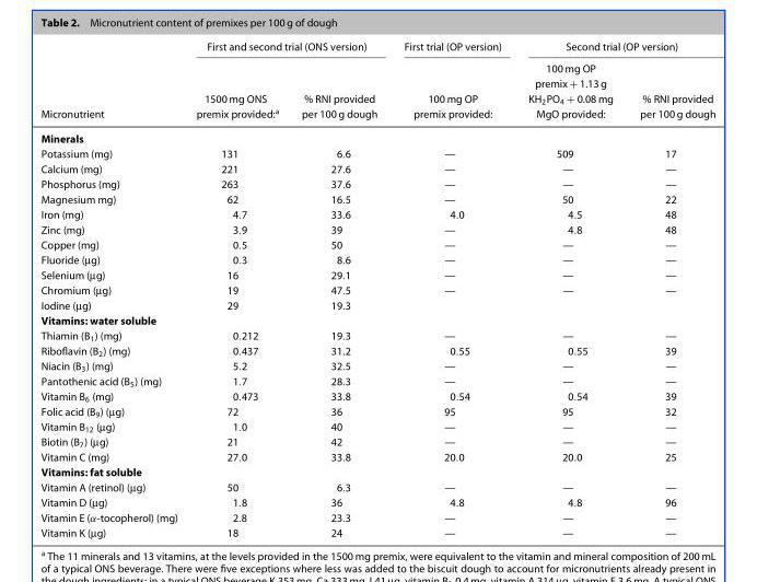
<table><thead><tr><td rowspan="2">Micronutrient</td><td colspan="2">First and second trial (ONS version)</td><td rowspan="2">First trial (OP version) 100 mg OP premix provided:</td><td colspan="2">Second trial (OP version)</td></tr><tr><td>1500 mg ONS premix provided:<sup>a</sup></td><td>% RNI provided per 100 g dough</td><td>100 mg OP premix + 1.13 g KH<sub>2</sub>PO<sub>4</sub> + 0.08 mg MgO provided:</td><td>% RNI provided per 100 g dough</td></tr></thead><tbody><tr><td colspan="6">Minerals</td></tr><tr><td>Potassium (mg)</td><td>131</td><td>6.6</td><td>—</td><td>509</td><td>17</td></tr><tr><td>Calcium (mg)</td><td>221</td><td>27.6</td><td>—</td><td>—</td><td>—</td></tr><tr><td>Phosphorus (mg)</td><td>263</td><td>37.6</td><td>—</td><td>—</td><td>—</td></tr><tr><td>Magnesium mg)</td><td>62</td><td>16.5</td><td>—</td><td>50</td><td>22</td></tr><tr><td>Iron (mg)</td><td>4.7</td><td>33.6</td><td>4.0</td><td>4.5</td><td>48</td></tr><tr><td>Zinc (mg)</td><td>3.9</td><td>39</td><td>—</td><td>4.8</td><td>48</td></tr><tr><td>Copper (mg)</td><td>0.5</td><td>50</td><td>—</td><td>—</td><td>—</td></tr><tr><td>Fluoride (μg)</td><td>0.3</td><td>8.6</td><td>—</td><td>—</td><td>—</td></tr><tr><td>Selenium (μg)</td><td>16</td><td>29.1</td><td>—</td><td>—</td><td>—</td></tr><tr><td>Chromium (μg)</td><td>19</td><td>47.5</td><td>—</td><td>—</td><td>—</td></tr><tr><td>Iodine (μg)</td><td>29</td><td>19.3</td><td></td><td></td><td></td></tr><tr><td colspan="6">Vitamins: water soluble</td></tr><tr><td>Thiamin (B<sub>1</sub>) (mg)</td><td>0.212</td><td>19.3</td><td>—</td><td>—</td><td>—</td></tr><tr><td>Riboflavin (B<sub>2</sub>) (mg)</td><td>0.437</td><td>31.2</td><td>0.55</td><td>0.55</td><td>39</td></tr><tr><td>Niacin (B<sub>3</sub>) (mg)</td><td>5.2</td><td>32.5</td><td>—</td><td>—</td><td>—</td></tr><tr><td>Pantothenic acid (B<sub>5</sub>) (mg)</td><td>1.7</td><td>28.3</td><td>—</td><td>—</td><td>—</td></tr><tr><td>Vitamin B<sub>6</sub> (mg)</td><td>0.473</td><td>33.8</td><td>0.54</td><td>0.54</td><td>39</td></tr><tr><td>Folic acid (B<sub>9</sub>) (μg)</td><td>72</td><td>36</td><td>95</td><td>95</td><td>32</td></tr><tr><td>Vitamin B<sub>12</sub> (μg)</td><td>1.0</td><td>40</td><td>—</td><td>—</td><td>—</td></tr><tr><td>Biotin (B<sub>7</sub>) (μg)</td><td>21</td><td>42</td><td>—</td><td>—</td><td>—</td></tr><tr><td>Vitamin C (mg)</td><td>27.0</td><td>33.8</td><td>20.0</td><td>20.0</td><td>25</td></tr><tr><td colspan="6">Vitamins: fat soluble</td></tr><tr><td>Vitamin A (retinol) (μg)</td><td>50</td><td>6.3</td><td>—</td><td>—</td><td>—</td></tr><tr><td>Vitamin D (μg)</td><td>1.8</td><td>36</td><td>4.8</td><td>4.8</td><td>96</td></tr><tr><td>Vitamin E (α-tocopherol) (mg)</td><td>2.8</td><td>23.3</td><td>—</td><td>—</td><td>—</td></tr><tr><td>Vitamin K (μg)</td><td>18</td><td>24</td><td>—</td><td>—</td><td>—</td></tr></tbody></table>